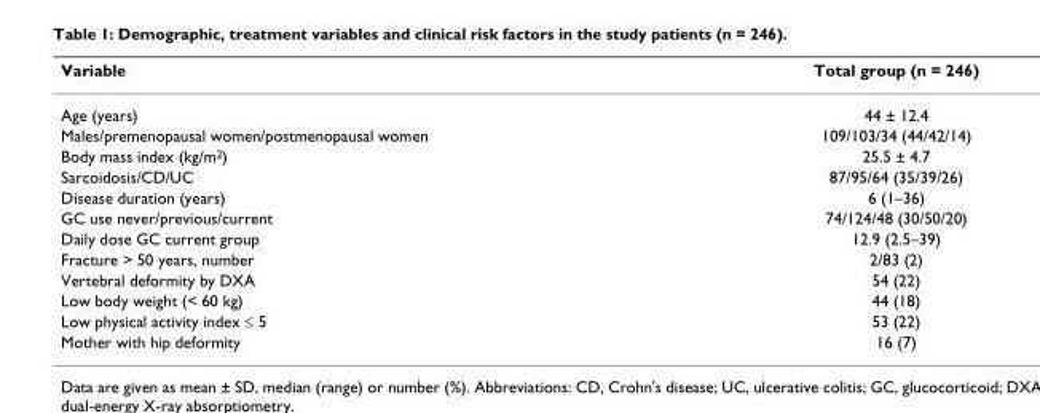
<table><thead><tr><td>Variable</td><td>Total group (n = 246)</td></tr></thead><tbody><tr><td>Age (years)</td><td>44 ± 12.4</td></tr><tr><td>Males/premenopausal women/postmenopausal women</td><td>109/103/34 (44/42/14)</td></tr><tr><td>Body mass index (kg/m<sup>2</sup>)</td><td>25.5 ± 4.7</td></tr><tr><td>Sarcoidosis/CD/UC</td><td>87/95/64 (35/39/26)</td></tr><tr><td>Disease duration (years)</td><td>6 (1–36)</td></tr><tr><td>GC use never/previous/current</td><td>74/124/48 (30/50/20)</td></tr><tr><td>Daily dose GC current group</td><td>12.9 (2.5–39)</td></tr><tr><td>Fracture &gt; 50 years, number</td><td>2/83 (2)</td></tr><tr><td>Vertebral deformity by DXA</td><td>54 (22)</td></tr><tr><td>Low body weight (&lt; 60 kg)</td><td>44 (18)</td></tr><tr><td>Low physical activity index ≤ 5</td><td>53 (22)</td></tr><tr><td>Mother with hip deformity</td><td>16 (7)</td></tr></tbody></table>